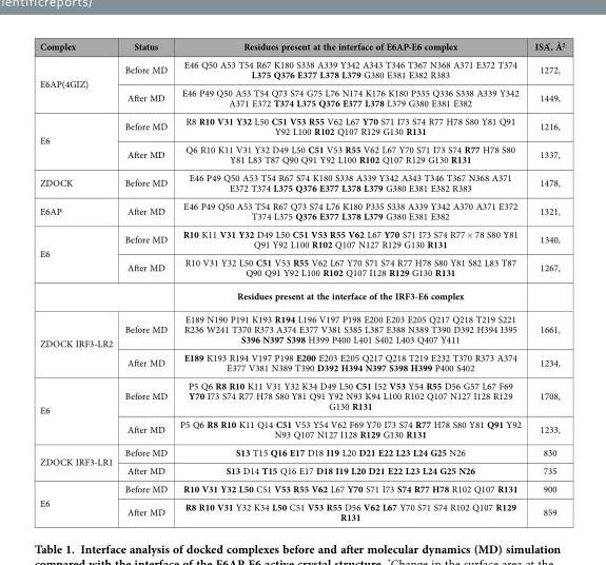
<table><thead><tr><td>Complex</td><td>Status</td><td>Residues present at the interface of E6AP-E6 complex</td><td>ISA*, Å<sup>2</sup></td></tr></thead><tbody><tr><td rowspan="2">E6AP(4GIZ)</td><td>Before MD</td><td>E46 Q50 A53 T54 R67 K180 S338 A339 Y342 A343 T346 T367 N368 A371 E372 T374 L375 Q376 E377 L378 L379 G380 E381 E382 R383</td><td>1272,</td></tr><tr><td>After MD</td><td>E46 P49 Q50 A53 T54 Q73 S74 G75 L76 N174 K176 K180 P335 Q336 S338 A339 Y342 A371 E372 T374 L375 Q376 E377 L378 L379 G380 E381 E382</td><td>1449,</td></tr><tr><td rowspan="2">E6</td><td>Before MD</td><td>R8 R10 V31 Y32 L50 C51 V53 R55 V62 L67 Y70 S71 I73 S74 R77 H78 S80 Y81 Q91 Y92 L100 R102 Q107 R129 G130 R131</td><td>1216,</td></tr><tr><td>After MD</td><td>Q6 R10 K11 V31 Y32 D49 L50 C51 V53 R55 V62 L67 Y70 S71 I73 S74 R77 H78 S80 Y81 L83 T87 Q90 Q91 Y92 L100 R102 Q107 R129 G130 R131</td><td>1337,</td></tr><tr><td>ZDOCK</td><td>Before MD</td><td>E46 P49 Q50 A53 T54 R67 S74 K180 S338 A339 Y342 A343 T346 T367 N368 A371 E372 T374 L375 Q376 E377 L378 L379 G380 E381 E382 R383</td><td>1478,</td></tr><tr><td>E6AP</td><td>After MD</td><td>E46 P49 Q50 A53 T54 R67 Q73 S74 L76 K180 P335 S338 A339 Y342 A370 A371 E372 T374 L375 Q376 E377 L378 L379 G380 E381 E382</td><td>1321,</td></tr><tr><td rowspan="2">E6</td><td>Before MD</td><td>R10 K11 V31 Y32 D49 L50 C51 V53 R55 V62 L67 Y70 S71 I73 S74 R77 × 78 S80 Y81 Q91 Y92 L100 R102 Q107 N127 R129 G130 R131</td><td>1340,</td></tr><tr><td>After MD</td><td>R10 V31 Y32 L50 C51 V53 R55 V62 L67 Y70 S71 S74 R77 H78 S80 Y81 S82 L83 T87 Q90 Q91 Y92 L100 R102 Q107 I128 R129 G130 R131</td><td>1267,</td></tr><tr><td colspan="2"></td><td>Residues present at the interface of the IRF3-E6 complex</td><td></td></tr><tr><td rowspan="2">ZDOCK IRF3-LR2</td><td>Before MD</td><td>E189 N190 P191 K193 R194 L196 V197 P198 E200 E203 E205 Q217 Q218 T219 S221 R236 W241 T370 R373 A374 E377 V381 S385 L387 E388 N389 T390 D392 H394 I395 S396 N397 S398 H399 P400 L401 S402 L403 Q407 Y411</td><td>1661,</td></tr><tr><td>After MD</td><td>E189 K193 R194 V197 P198 E200 E203 E205 Q217 Q218 T219 E232 T370 R373 A374 E377 V381 N389 T390 D392 H394 N397 S398 H399 P400 S402</td><td>1234,</td></tr><tr><td rowspan="2">E6</td><td>Before MD</td><td>P5 Q6 R8 R10 K11 V31 Y32 K34 D49 L50 C51 I52 V53 Y54 R55 D56 G57 L67 F69 Y70 I73 S74 R77 H78 S80 Y81 Q91 Y92 N93 K94 L100 R102 Q107 N127 I128 R129 G130 R131</td><td>1708,</td></tr><tr><td>After MD</td><td>P5 Q6 R8 R10 K11 Q14 C51 V53 Y54 V62 F69 Y70 I73 S74 R77 H78 S80 Y81 Q91 Y92 N93 Q107 N127 I128 R129 G130 R131</td><td>1233,</td></tr><tr><td rowspan="2">ZDOCK IRF3-LR1</td><td>Before MD</td><td>S13 T15 Q16 E17 D18 I19 L20 D21 E22 L23 L24 G25 N26</td><td>830</td></tr><tr><td>After MD</td><td>S13 D14 T15 Q16 E17 D18 I19 L20 D21 E22 L23 L24 G25 N26</td><td>735</td></tr><tr><td rowspan="2">E6</td><td>Before MD</td><td>R10 V31 Y32 L50 C51 V53 R55 V62 L67 Y70 S71 I73 S74 R77 H78 R102 Q107 R131</td><td>900</td></tr><tr><td>After MD</td><td>R8 R10 V31 Y32 K34 L50 C51 V53 R55 D56 V62 L67 Y70 S71 S74 R102 Q107 R129 R131</td><td>859</td></tr></tbody></table>